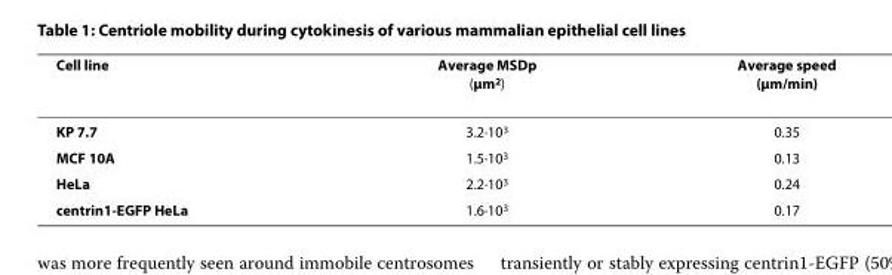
<table><thead><tr><td>Cell line</td><td>Average MSDp (μm<sup>2</sup>)</td><td>Average speed (μm/min)</td></tr></thead><tbody><tr><td>KP 7.7</td><td>3.2·10<sup>3</sup></td><td>0.35</td></tr><tr><td>MCF 10A</td><td>1.5·10<sup>3</sup></td><td>0.13</td></tr><tr><td>HeLa</td><td>2.2·10<sup>3</sup></td><td>0.24</td></tr><tr><td>centrin1-EGFP HeLa</td><td>1.6·10<sup>3</sup></td><td>0.17</td></tr></tbody></table>